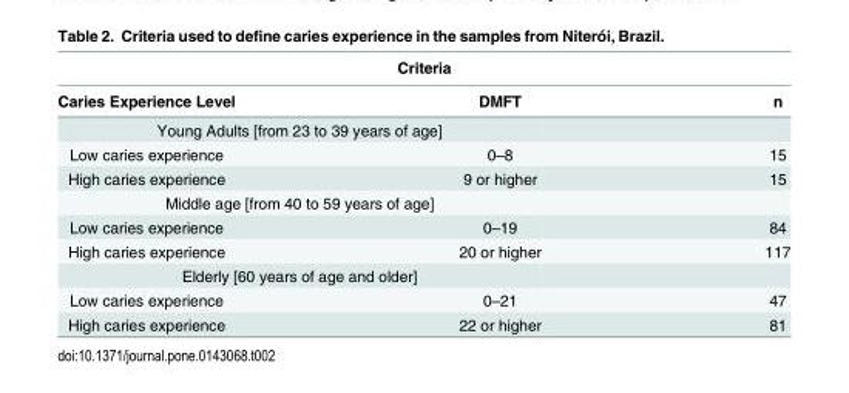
<table><thead><tr><td colspan="3">Criteria</td></tr><tr><td>Caries Experience Level</td><td>DMFT</td><td>n</td></tr></thead><tbody><tr><td colspan="3">Young Adults [from 23 to 39 years of age]</td></tr><tr><td>Low caries experience</td><td>0–8</td><td>15</td></tr><tr><td>High caries experience</td><td>9 or higher</td><td>15</td></tr><tr><td colspan="3">Middle age [from 40 to 59 years of age]</td></tr><tr><td>Low caries experience</td><td>0–19</td><td>84</td></tr><tr><td>High caries experience</td><td>20 or higher</td><td>117</td></tr><tr><td colspan="3">Elderly [60 years of age and older]</td></tr><tr><td>Low caries experience</td><td>0–21</td><td>47</td></tr><tr><td>High caries experience</td><td>22 or higher</td><td>81</td></tr></tbody></table>